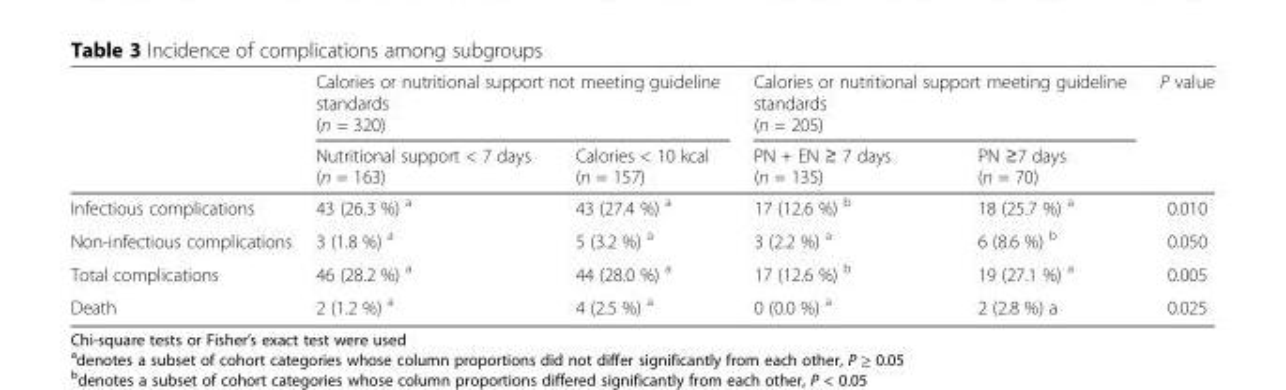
<table><thead><tr><td rowspan="2"></td><td colspan="2">Calories or nutritional support not meeting guideline standards (n = 320)</td><td colspan="2">Calories or nutritional support meeting guideline standards (n = 205)</td><td rowspan="2">P value</td></tr><tr><td>Nutritional support &lt; 7 days (n = 163)</td><td>Calories &lt; 10 kcal (n = 157)</td><td>PN + EN ≥ 7 days (n = 135)</td><td>PN ≥7 days (n = 70)</td></tr></thead><tbody><tr><td>Infectious complications</td><td>43 (26.3 %) <sup>a</sup></td><td>43 (27.4 %) <sup>a</sup></td><td>17 (12.6 %) <sup>b</sup></td><td>18 (25.7 %) <sup>a</sup></td><td>0.010</td></tr><tr><td>Non-infectious complications</td><td>3 (1.8 %) <sup>a</sup></td><td>5 (3.2 %) <sup>a</sup></td><td>3 (2.2 %) <sup>a</sup></td><td>6 (8.6 %) <sup>b</sup></td><td>0.050</td></tr><tr><td>Total complications</td><td>46 (28.2 %) <sup>a</sup></td><td>44 (28.0 %) <sup>a</sup></td><td>17 (12.6 %) <sup>b</sup></td><td>19 (27.1 %) <sup>a</sup></td><td>0.005</td></tr><tr><td>Death</td><td>2 (1.2 %) <sup>a</sup></td><td>4 (2.5 %) <sup>a</sup></td><td>0 (0.0 %) <sup>a</sup></td><td>2 (2.8 %) a</td><td>0.025</td></tr></tbody></table>